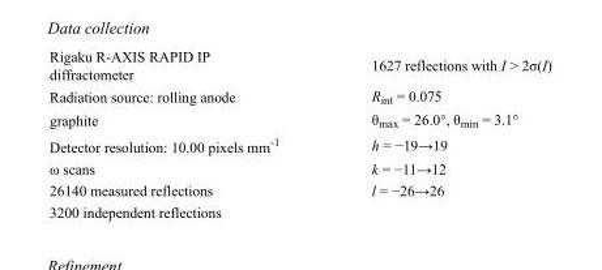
<table><tbody><tr><td>Rigaku R-AXIS RAPID IP diffractometer</td><td>1627 reflections with I &gt; 2σ(I)</td></tr><tr><td>Radiation source: rolling anode</td><td>R<sub>int</sub> = 0.075</td></tr><tr><td>graphite</td><td>θ<sub>max</sub> = 26.0°, θ<sub>min</sub> = 3.1°</td></tr><tr><td>Detector resolution: 10.00 pixels mm<sup>-1</sup></td><td>h = −19→19</td></tr><tr><td>ω scans</td><td>k = −11→12</td></tr><tr><td>26140 measured reflections</td><td>l = −26→26</td></tr><tr><td>3200 independent reflections</td><td></td></tr></tbody></table>